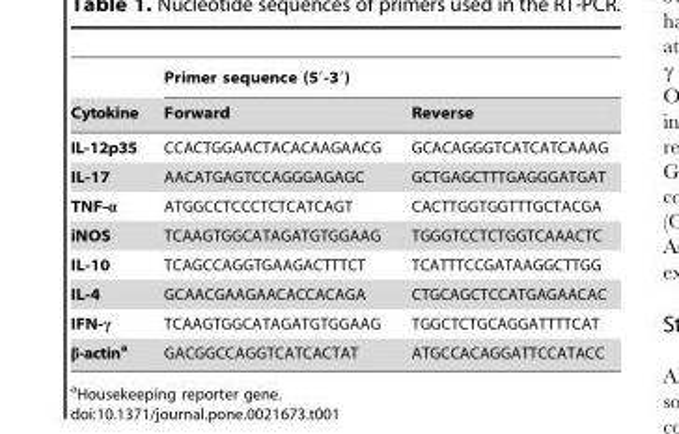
<table><thead><tr><td rowspan="2">Cytokine</td><td colspan="2">Primer sequence (5′-3′)</td></tr><tr><td>Forward</td><td>Reverse</td></tr></thead><tbody><tr><td>IL-12p35</td><td>CCACTGGAACTACACAAGAACG</td><td>GCACAGGGTCATCATCAAAG</td></tr><tr><td>IL-17</td><td>AACATGAGTCCAGGGAGAGC</td><td>GCTGAGCTTTGAGGGATGAT</td></tr><tr><td>TNF-α</td><td>ATGGCCTCCCTCTCATCAGT</td><td>CACTTGGTGGTTTGCTACGA</td></tr><tr><td>iNOS</td><td>TCAAGTGGCATAGATGTGGAAG</td><td>TGGGTCCTCTGGTCAAACTC</td></tr><tr><td>IL-10</td><td>TCAGCCAGGTGAAGACTTTCT</td><td>TCATTTCCGATAAGGCTTGG</td></tr><tr><td>IL-4</td><td>GCAACGAAGAACACCACAGA</td><td>CTGCAGCTCCATGAGAACAC</td></tr><tr><td>IFN-γ</td><td>TCAAGTGGCATAGATGTGGAAG</td><td>TGGCTCTGCAGGATTTTCAT</td></tr><tr><td>β-actina</td><td>GACGGCCAGGTCATCACTAT</td><td>ATGCCACAGGATTCCATACC</td></tr></tbody></table>